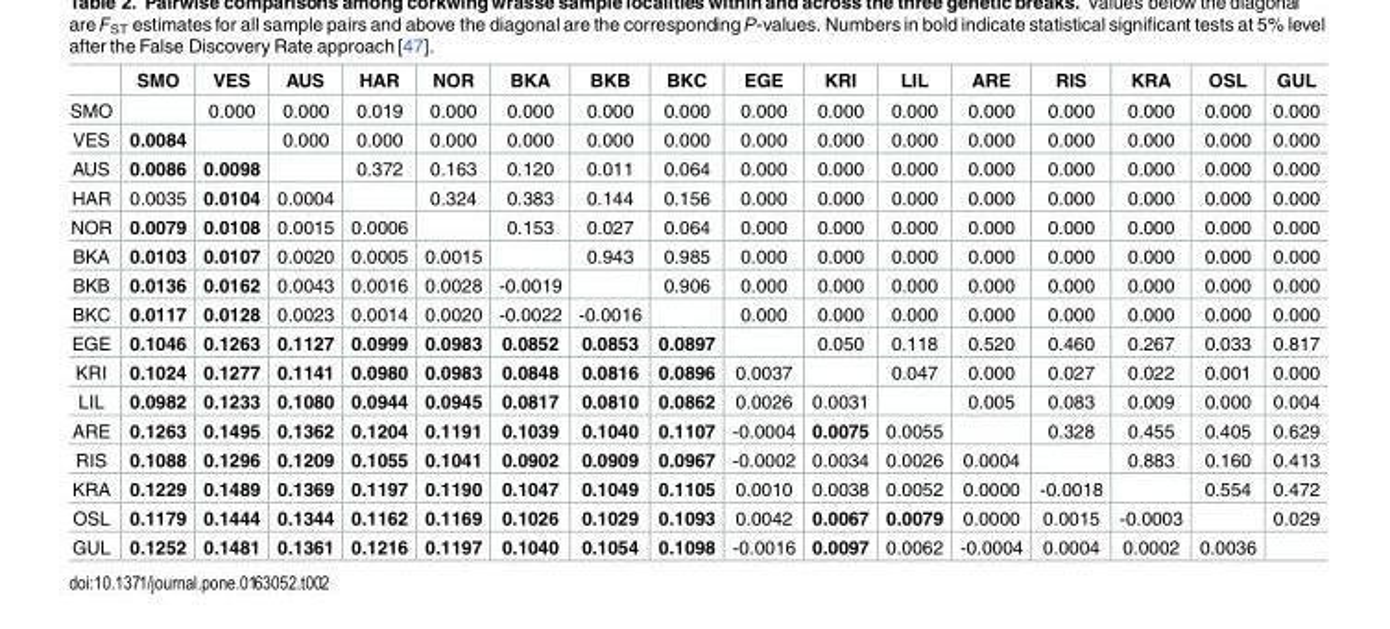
<table><thead><tr><td></td><td>SMO</td><td>VES</td><td>AUS</td><td>HAR</td><td>NOR</td><td>BKA</td><td>BKB</td><td>BKC</td><td>EGE</td><td>KRI</td><td>LIL</td><td>ARE</td><td>RIS</td><td>KRA</td><td>OSL</td><td>GUL</td></tr></thead><tbody><tr><td>SMO</td><td></td><td>0.000</td><td>0.000</td><td>0.019</td><td>0.000</td><td>0.000</td><td>0.000</td><td>0.000</td><td>0.000</td><td>0.000</td><td>0.000</td><td>0.000</td><td>0.000</td><td>0.000</td><td>0.000</td><td>0.000</td></tr><tr><td>VES</td><td>0.0084</td><td></td><td>0.000</td><td>0.000</td><td>0.000</td><td>0.000</td><td>0.000</td><td>0.000</td><td>0.000</td><td>0.000</td><td>0.000</td><td>0.000</td><td>0.000</td><td>0.000</td><td>0.000</td><td>0.000</td></tr><tr><td>AUS</td><td>0.0086</td><td>0.0098</td><td></td><td>0.372</td><td>0.163</td><td>0.120</td><td>0.011</td><td>0.064</td><td>0.000</td><td>0.000</td><td>0.000</td><td>0.000</td><td>0.000</td><td>0.000</td><td>0.000</td><td>0.000</td></tr><tr><td>HAR</td><td>0.0035</td><td>0.0104</td><td>0.0004</td><td></td><td>0.324</td><td>0.383</td><td>0.144</td><td>0.156</td><td>0.000</td><td>0.000</td><td>0.000</td><td>0.000</td><td>0.000</td><td>0.000</td><td>0.000</td><td>0.000</td></tr><tr><td>NOR</td><td>0.0079</td><td>0.0108</td><td>0.0015</td><td>0.0006</td><td></td><td>0.153</td><td>0.027</td><td>0.064</td><td>0.000</td><td>0.000</td><td>0.000</td><td>0.000</td><td>0.000</td><td>0.000</td><td>0.000</td><td>0.000</td></tr><tr><td>BKA</td><td>0.0103</td><td>0.0107</td><td>0.0020</td><td>0.0005</td><td>0.0015</td><td></td><td>0.943</td><td>0.985</td><td>0.000</td><td>0.000</td><td>0.000</td><td>0.000</td><td>0.000</td><td>0.000</td><td>0.000</td><td>0.000</td></tr><tr><td>BKB</td><td>0.0136</td><td>0.0162</td><td>0.0043</td><td>0.0016</td><td>0.0028</td><td>-0.0019</td><td></td><td>0.906</td><td>0.000</td><td>0.000</td><td>0.000</td><td>0.000</td><td>0.000</td><td>0.000</td><td>0.000</td><td>0.000</td></tr><tr><td>BKC</td><td>0.0117</td><td>0.0128</td><td>0.0023</td><td>0.0014</td><td>0.0020</td><td>-0.0022</td><td>-0.0016</td><td></td><td>0.000</td><td>0.000</td><td>0.000</td><td>0.000</td><td>0.000</td><td>0.000</td><td>0.000</td><td>0.000</td></tr><tr><td>EGE</td><td>0.1046</td><td>0.1263</td><td>0.1127</td><td>0.0999</td><td>0.0983</td><td>0.0852</td><td>0.0853</td><td>0.0897</td><td></td><td>0.050</td><td>0.118</td><td>0.520</td><td>0.460</td><td>0.267</td><td>0.033</td><td>0.817</td></tr><tr><td>KRI</td><td>0.1024</td><td>0.1277</td><td>0.1141</td><td>0.0980</td><td>0.0983</td><td>0.0848</td><td>0.0816</td><td>0.0896</td><td>0.0037</td><td></td><td>0.047</td><td>0.000</td><td>0.027</td><td>0.022</td><td>0.001</td><td>0.000</td></tr><tr><td>LIL</td><td>0.0982</td><td>0.1233</td><td>0.1080</td><td>0.0944</td><td>0.0945</td><td>0.0817</td><td>0.0810</td><td>0.0862</td><td>0.0026</td><td>0.0031</td><td></td><td>0.005</td><td>0.083</td><td>0.009</td><td>0.000</td><td>0.004</td></tr><tr><td>ARE</td><td>0.1263</td><td>0.1495</td><td>0.1362</td><td>0.1204</td><td>0.1191</td><td>0.1039</td><td>0.1040</td><td>0.1107</td><td>-0.0004</td><td>0.0075</td><td>0.0055</td><td></td><td>0.328</td><td>0.455</td><td>0.405</td><td>0.629</td></tr><tr><td>RIS</td><td>0.1088</td><td>0.1296</td><td>0.1209</td><td>0.1055</td><td>0.1041</td><td>0.0902</td><td>0.0909</td><td>0.0967</td><td>-0.0002</td><td>0.0034</td><td>0.0026</td><td>0.0004</td><td></td><td>0.883</td><td>0.160</td><td>0.413</td></tr><tr><td>KRA</td><td>0.1229</td><td>0.1489</td><td>0.1369</td><td>0.1197</td><td>0.1190</td><td>0.1047</td><td>0.1049</td><td>0.1105</td><td>0.0010</td><td>0.0038</td><td>0.0052</td><td>0.0000</td><td>-0.0018</td><td></td><td>0.554</td><td>0.472</td></tr><tr><td>OSL</td><td>0.1179</td><td>0.1444</td><td>0.1344</td><td>0.1162</td><td>0.1169</td><td>0.1026</td><td>0.1029</td><td>0.1093</td><td>0.0042</td><td>0.0067</td><td>0.0079</td><td>0.0000</td><td>0.0015</td><td>-0.0003</td><td></td><td>0.029</td></tr><tr><td>GUL</td><td>0.1252</td><td>0.1481</td><td>0.1361</td><td>0.1216</td><td>0.1197</td><td>0.1040</td><td>0.1054</td><td>0.1098</td><td>-0.0016</td><td>0.0097</td><td>0.0062</td><td>-0.0004</td><td>0.0004</td><td>0.0002</td><td>0.0036</td><td></td></tr></tbody></table>